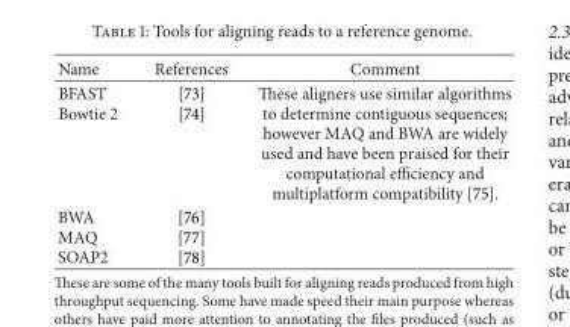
<table><thead><tr><td>Name</td><td>References</td><td>Comment</td></tr></thead><tbody><tr><td>BFAST Bowtie 2</td><td>[73] [74]</td><td>These aligners use similar algorithms to determine contiguous sequences; however MAQ and BWA are widely used and have been praised for their computational efficiency and multiplatform compatibility [75].</td></tr><tr><td>BWA MAQ SOAP2</td><td>[76] [77] [78]</td><td></td></tr></tbody></table>